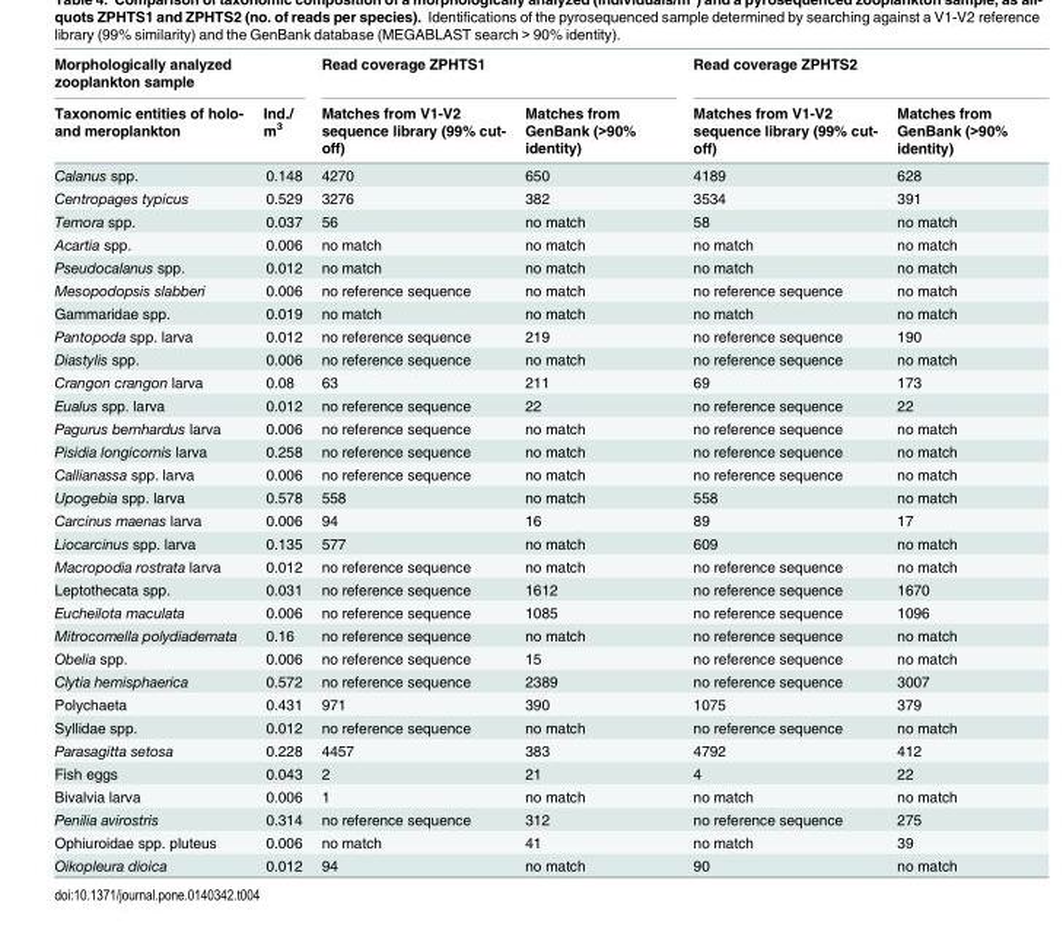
<table><thead><tr><td colspan="2">Morphologically analyzed zooplankton sample</td><td colspan="2">Read coverage ZPHTS1</td><td colspan="2">Read coverage ZPHTS2</td></tr><tr><td>Taxonomic entities of holo- and meroplankton</td><td>Ind./ m<sup>3</sup></td><td>Matches from V1-V2 sequence library (99% cut- off)</td><td>Matches from GenBank (&gt;90% identity)</td><td>Matches from V1-V2 sequence library (99% cut- off)</td><td>Matches from GenBank (&gt;90% identity)</td></tr></thead><tbody><tr><td>Calanus spp.</td><td>0.148</td><td>4270</td><td>650</td><td>4189</td><td>628</td></tr><tr><td>Centropages typicus</td><td>0.529</td><td>3276</td><td>382</td><td>3534</td><td>391</td></tr><tr><td>Temora spp.</td><td>0.037</td><td>56</td><td>no match</td><td>58</td><td>no match</td></tr><tr><td>Acartia spp.</td><td>0.006</td><td>no match</td><td>no match</td><td>no match</td><td>no match</td></tr><tr><td>Pseudocalanus spp.</td><td>0.012</td><td>no match</td><td>no match</td><td>no match</td><td>no match</td></tr><tr><td>Mesopodopsis slabberi</td><td>0.006</td><td>no reference sequence</td><td>no match</td><td>no reference sequence</td><td>no match</td></tr><tr><td>Gammaridae spp.</td><td>0.019</td><td>no match</td><td>no match</td><td>no match</td><td>no match</td></tr><tr><td>Pantopoda spp. larva</td><td>0.012</td><td>no reference sequence</td><td>219</td><td>no reference sequence</td><td>190</td></tr><tr><td>Diastylis spp.</td><td>0.006</td><td>no reference sequence</td><td>no match</td><td>no reference sequence</td><td>no match</td></tr><tr><td>Crangon crangon larva</td><td>0.08</td><td>63</td><td>211</td><td>69</td><td>173</td></tr><tr><td>Eualus spp. larva</td><td>0.012</td><td>no reference sequence</td><td>22</td><td>no reference sequence</td><td>22</td></tr><tr><td>Pagurus bernhardus larva</td><td>0.006</td><td>no reference sequence</td><td>no match</td><td>no reference sequence</td><td>no match</td></tr><tr><td>Pisidia longicornis larva</td><td>0.258</td><td>no reference sequence</td><td>no match</td><td>no reference sequence</td><td>no match</td></tr><tr><td>Callianassa spp. larva</td><td>0.006</td><td>no reference sequence</td><td>no match</td><td>no reference sequence</td><td>no match</td></tr><tr><td>Upogebia spp. larva</td><td>0.578</td><td>558</td><td>no match</td><td>558</td><td>no match</td></tr><tr><td>Carcinus maenas larva</td><td>0.006</td><td>94</td><td>16</td><td>89</td><td>17</td></tr><tr><td>Liocarcinus spp. larva</td><td>0.135</td><td>577</td><td>no match</td><td>609</td><td>no match</td></tr><tr><td>Macropodia rostrata larva</td><td>0.012</td><td>no reference sequence</td><td>no match</td><td>no reference sequence</td><td>no match</td></tr><tr><td>Leptothecata spp.</td><td>0.031</td><td>no reference sequence</td><td>1612</td><td>no reference sequence</td><td>1670</td></tr><tr><td>Eucheilota maculata</td><td>0.006</td><td>no reference sequence</td><td>1085</td><td>no reference sequence</td><td>1096</td></tr><tr><td>Mitrocomella polydiademata</td><td>0.16</td><td>no reference sequence</td><td>no match</td><td>no reference sequence</td><td>no match</td></tr><tr><td>Obelia spp.</td><td>0.006</td><td>no reference sequence</td><td>15</td><td>no reference sequence</td><td>no match</td></tr><tr><td>Clytia hemisphaerica</td><td>0.572</td><td>no reference sequence</td><td>2389</td><td>no reference sequence</td><td>3007</td></tr><tr><td>Polychaeta</td><td>0.431</td><td>971</td><td>390</td><td>1075</td><td>379</td></tr><tr><td>Syllidae spp.</td><td>0.012</td><td>no reference sequence</td><td>no match</td><td>no reference sequence</td><td>no match</td></tr><tr><td>Parasagitta setosa</td><td>0.228</td><td>4457</td><td>383</td><td>4792</td><td>412</td></tr><tr><td>Fish eggs</td><td>0.043</td><td>2</td><td>21</td><td>4</td><td>22</td></tr><tr><td>Bivalvia larva</td><td>0.006</td><td>1</td><td>no match</td><td>no match</td><td>no match</td></tr><tr><td>Penilia avirostris</td><td>0.314</td><td>no reference sequence</td><td>312</td><td>no reference sequence</td><td>275</td></tr><tr><td>Ophiuroidae spp. pluteus</td><td>0.006</td><td>no match</td><td>41</td><td>no match</td><td>39</td></tr><tr><td>Oikopleura dioica</td><td>0.012</td><td>94</td><td>no match</td><td>90</td><td>no match</td></tr></tbody></table>